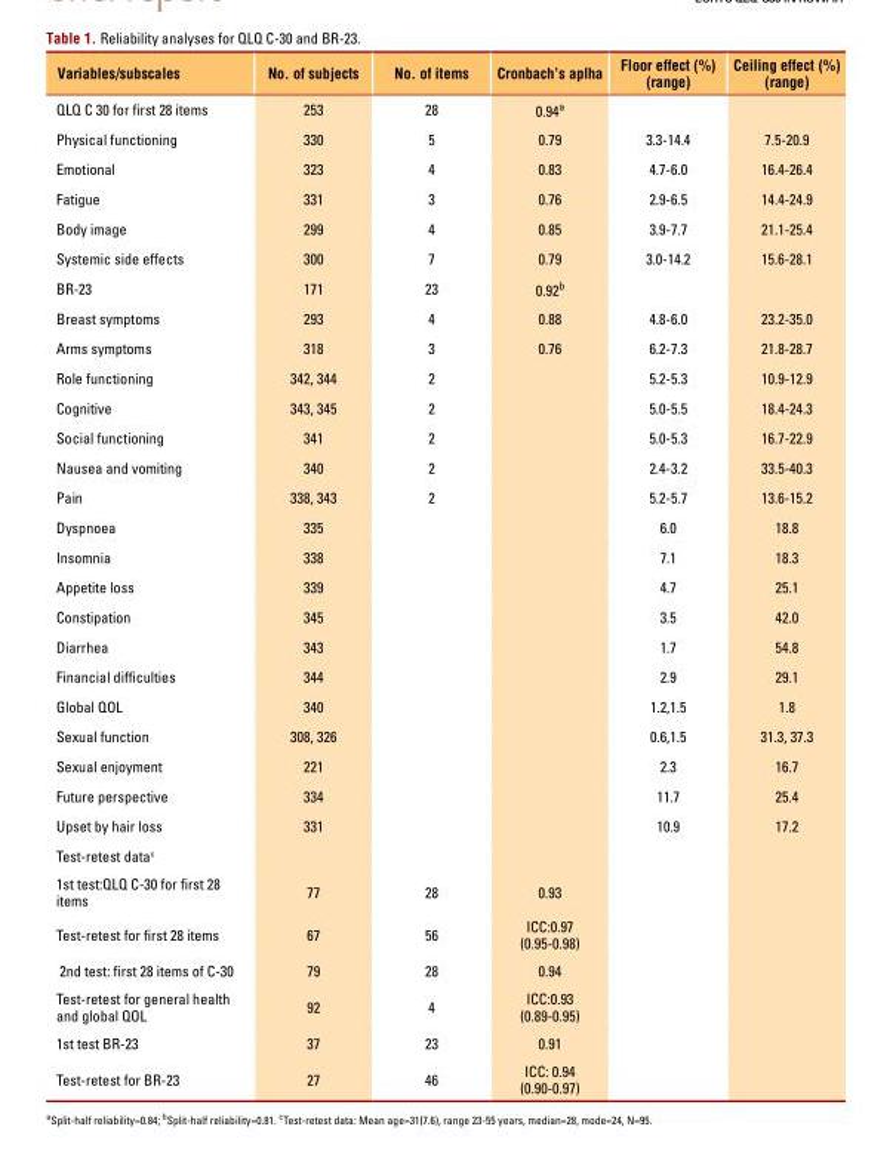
<table><thead><tr><td>Variables/subscales</td><td>No. of subjects</td><td>No. of items</td><td>Cronbach’s aplha</td><td>Floor effect (%) (range)</td><td>Ceiling effect (%) (range)</td></tr></thead><tbody><tr><td>QLQ C 30 for first 28 items</td><td>253</td><td>28</td><td>0.94<sup>a</sup></td><td colspan="2"></td></tr><tr><td>Physical functioning</td><td>330</td><td>5</td><td>0.79</td><td>3.3-14.4</td><td>7.5-20.9</td></tr><tr><td>Emotional</td><td>323</td><td>4</td><td>0.83</td><td>4.7-6.0</td><td>16.4-26.4</td></tr><tr><td>Fatigue</td><td>331</td><td>3</td><td>0.76</td><td>2.9-6.5</td><td>14.4-24.9</td></tr><tr><td>Body image</td><td>299</td><td>4</td><td>0.85</td><td>3.9-7.7</td><td>21.1-25.4</td></tr><tr><td>Systemic side effects</td><td>300</td><td>7</td><td>0.79</td><td>3.0-14.2</td><td>15.6-28.1</td></tr><tr><td>BR-23</td><td>171</td><td>23</td><td>0.92<sup>b</sup></td><td colspan="2"></td></tr><tr><td>Breast symptoms</td><td>293</td><td>4</td><td>0.88</td><td>4.8-6.0</td><td>23.2-35.0</td></tr><tr><td>Arms symptoms</td><td>318</td><td>3</td><td>0.76</td><td>6.2-7.3</td><td>21.8-28.7</td></tr><tr><td>Role functioning</td><td>342, 344</td><td>2</td><td></td><td>5.2-5.3</td><td>10.9-12.9</td></tr><tr><td>Cognitive</td><td>343, 345</td><td>2</td><td></td><td>5.0-5.5</td><td>18.4-24.3</td></tr><tr><td>Social functioning</td><td>341</td><td>2</td><td></td><td>5.0-5.3</td><td>16.7-22.9</td></tr><tr><td>Nausea and vomiting</td><td>340</td><td>2</td><td></td><td>2.4-3.2</td><td>33.5-40.3</td></tr><tr><td>Pain</td><td>338, 343</td><td>2</td><td></td><td>5.2-5.7</td><td>13.6-15.2</td></tr><tr><td>Dyspnoea</td><td>335</td><td></td><td></td><td>6.0</td><td>18.8</td></tr><tr><td>Insomnia</td><td>338</td><td></td><td></td><td>7.1</td><td>18.3</td></tr><tr><td>Appetite loss</td><td>339</td><td></td><td></td><td>4.7</td><td>25.1</td></tr><tr><td>Constipation</td><td>345</td><td></td><td></td><td>3.5</td><td>42.0</td></tr><tr><td>Diarrhea</td><td>343</td><td></td><td></td><td>1.7</td><td>54.8</td></tr><tr><td>Financial difficulties</td><td>344</td><td></td><td></td><td>2.9</td><td>29.1</td></tr><tr><td>Global QOL</td><td>340</td><td></td><td></td><td>1.2,1.5</td><td>1.8</td></tr><tr><td>Sexual function</td><td>308, 326</td><td></td><td></td><td>0.6,1.5</td><td>31.3, 37.3</td></tr><tr><td>Sexual enjoyment</td><td>221</td><td></td><td></td><td>2.3</td><td>16.7</td></tr><tr><td>Future perspective</td><td>334</td><td></td><td></td><td>11.7</td><td>25.4</td></tr><tr><td>Upset by hair loss</td><td>331</td><td></td><td></td><td>10.9</td><td>17.2</td></tr><tr><td colspan="6">Test-retest data<sup>c</sup></td></tr><tr><td>1st test:QLQ C-30 for first 28 items</td><td>77</td><td>28</td><td>0.93</td><td colspan="2"></td></tr><tr><td>Test-retest for first 28 items</td><td>67</td><td>56</td><td>ICC:0.97 (0.95-0.98)</td><td colspan="2"></td></tr><tr><td>2nd test: first 28 items of C-30</td><td>79</td><td>28</td><td>0.94</td><td colspan="2"></td></tr><tr><td>Test-retest for general health and global QOL</td><td>92</td><td>4</td><td>ICC:0.93 (0.89-0.95)</td><td colspan="2"></td></tr><tr><td>1st test BR-23</td><td>37</td><td>23</td><td>0.91</td><td colspan="2"></td></tr><tr><td>Test-retest for BR-23</td><td>27</td><td>46</td><td>ICC: 0.94 (0.90-0.97)</td><td colspan="2"></td></tr></tbody></table>